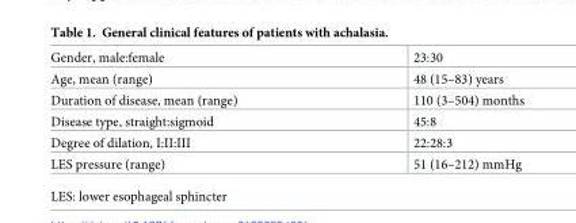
<table><tbody><tr><td>Gender, male:female</td><td>23:30</td></tr><tr><td>Age, mean (range)</td><td>48 (15–83) years</td></tr><tr><td>Duration of disease, mean (range)</td><td>110 (3–504) months</td></tr><tr><td>Disease type, straight:sigmoid</td><td>45:8</td></tr><tr><td>Degree of dilation, I:II:III</td><td>22:28:3</td></tr><tr><td>LES pressure (range)</td><td>51 (16–212) mmHg</td></tr></tbody></table>